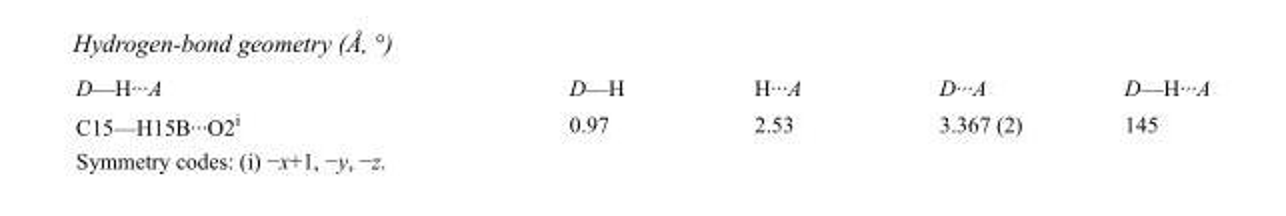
<table><tbody><tr><td>D—H···A</td><td>D—H</td><td>H···A</td><td>D···A</td><td>D—H···A</td></tr><tr><td>C15—H15B···O2<sup>i</sup></td><td>0.97</td><td>2.53</td><td>3.367 (2)</td><td>145</td></tr></tbody></table>